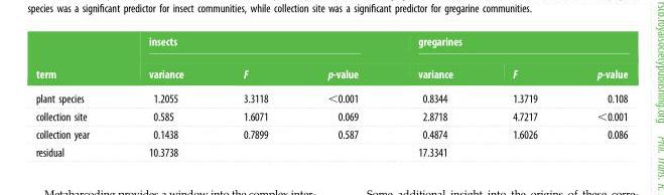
<table><thead><tr><td rowspan="2">term</td><td colspan="3">insects</td><td colspan="3">gregarines</td></tr><tr><td>variance</td><td>F</td><td>p-value</td><td>variance</td><td>F</td><td>p-value</td></tr></thead><tbody><tr><td>plant species</td><td>1.2055</td><td>3.3118</td><td>&lt;0.001</td><td>0.8344</td><td>1.3719</td><td>0.108</td></tr><tr><td>collection site</td><td>0.585</td><td>1.6071</td><td>0.069</td><td>2.8718</td><td>4.7217</td><td>&lt;0.001</td></tr><tr><td>collection year</td><td>0.1438</td><td>0.7899</td><td>0.587</td><td>0.4874</td><td>1.6026</td><td>0.086</td></tr><tr><td>residual</td><td>10.3738</td><td></td><td></td><td>17.3341</td><td></td><td></td></tr></tbody></table>